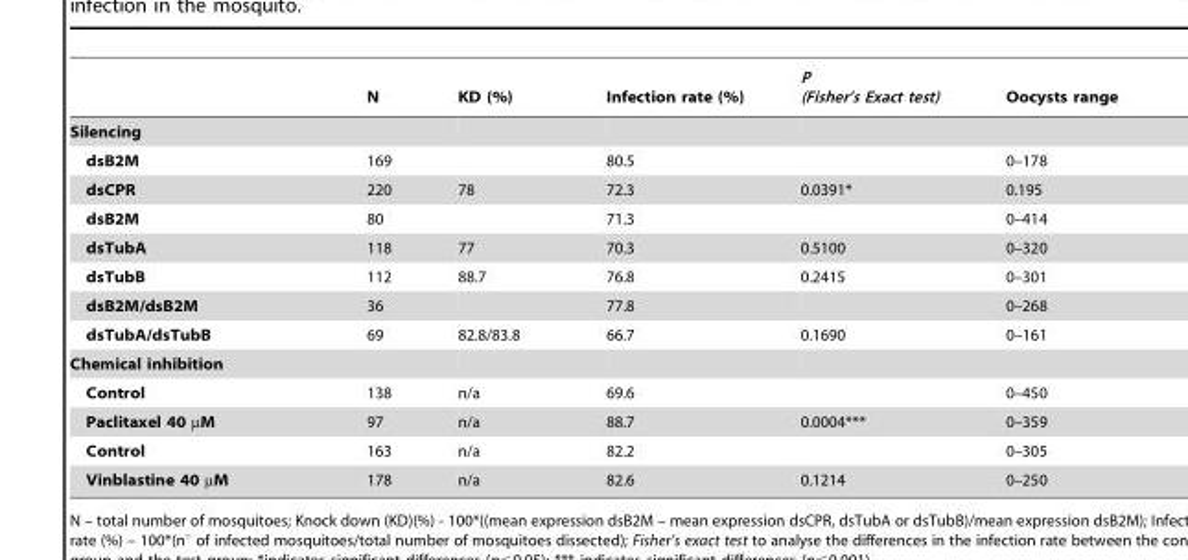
<table><thead><tr><td></td><td>N</td><td>KD (%)</td><td>Infection rate (%)</td><td>P (Fisher’s Exact test)</td><td>Oocysts range</td></tr></thead><tbody><tr><td colspan="6">Silencing</td></tr><tr><td>dsB2M</td><td>169</td><td></td><td>80.5</td><td></td><td>0–178</td></tr><tr><td>dsCPR</td><td>220</td><td>78</td><td>72.3</td><td>0.0391*</td><td>0.195</td></tr><tr><td>dsB2M</td><td>80</td><td></td><td>71.3</td><td></td><td>0–414</td></tr><tr><td>dsTubA</td><td>118</td><td>77</td><td>70.3</td><td>0.5100</td><td>0–320</td></tr><tr><td>dsTubB</td><td>112</td><td>88.7</td><td>76.8</td><td>0.2415</td><td>0–301</td></tr><tr><td>dsB2M/dsB2M</td><td>36</td><td></td><td>77.8</td><td></td><td>0–268</td></tr><tr><td>dsTubA/dsTubB</td><td>69</td><td>82.8/83.8</td><td>66.7</td><td>0.1690</td><td>0–161</td></tr><tr><td colspan="6">Chemical inhibition</td></tr><tr><td>Control</td><td>138</td><td>n/a</td><td>69.6</td><td></td><td>0–450</td></tr><tr><td>Paclitaxel 40 µM</td><td>97</td><td>n/a</td><td>88.7</td><td>0.0004***</td><td>0–359</td></tr><tr><td>Control</td><td>163</td><td>n/a</td><td>82.2</td><td></td><td>0–305</td></tr><tr><td>Vinblastine 40 µM</td><td>178</td><td>n/a</td><td>82.6</td><td>0.1214</td><td>0–250</td></tr></tbody></table>